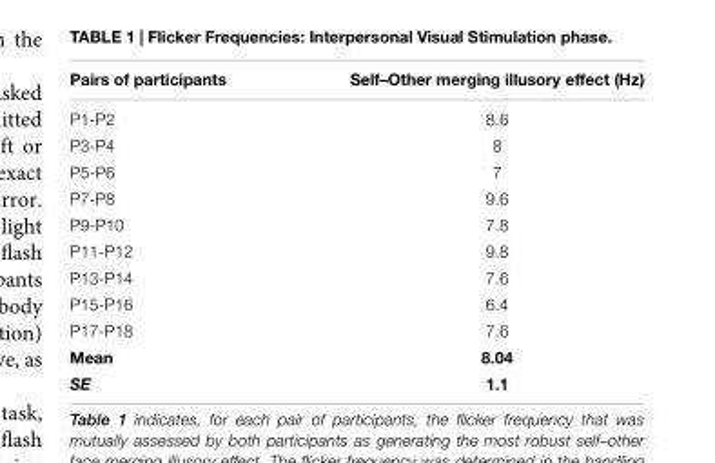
<table><thead><tr><td>Pairs of participants</td><td>Self–Other merging illusory effect (Hz)</td></tr></thead><tbody><tr><td>P1-P2</td><td>8.6</td></tr><tr><td>P3-P4</td><td>8</td></tr><tr><td>P5-P6</td><td>7</td></tr><tr><td>P7-P8</td><td>9.6</td></tr><tr><td>P9-P10</td><td>7.8</td></tr><tr><td>P11-P12</td><td>9.8</td></tr><tr><td>P13-P14</td><td>7.6</td></tr><tr><td>P15-P16</td><td>6.4</td></tr><tr><td>P17-P18</td><td>7.6</td></tr><tr><td>Mean</td><td>8.04</td></tr><tr><td>SE</td><td>1.1</td></tr></tbody></table>